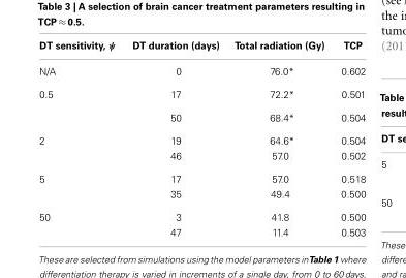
<table><thead><tr><td>DT sensitivity, ψ</td><td>DT duration (days)</td><td>Total radiation (Gy)</td><td>TCP</td></tr></thead><tbody><tr><td>N/A</td><td>0</td><td>76.0*</td><td>0.602</td></tr><tr><td rowspan="2">0.5</td><td>17</td><td>72.2*</td><td>0.501</td></tr><tr><td>50</td><td>68.4*</td><td>0.504</td></tr><tr><td rowspan="2">2</td><td>19</td><td>64.6*</td><td>0.504</td></tr><tr><td>46</td><td>57.0</td><td>0.502</td></tr><tr><td rowspan="2">5</td><td>17</td><td>57.0</td><td>0.518</td></tr><tr><td>35</td><td>49.4</td><td>0.500</td></tr><tr><td rowspan="2">50</td><td>3</td><td>41.8</td><td>0.500</td></tr><tr><td>47</td><td>11.4</td><td>0.503</td></tr></tbody></table>